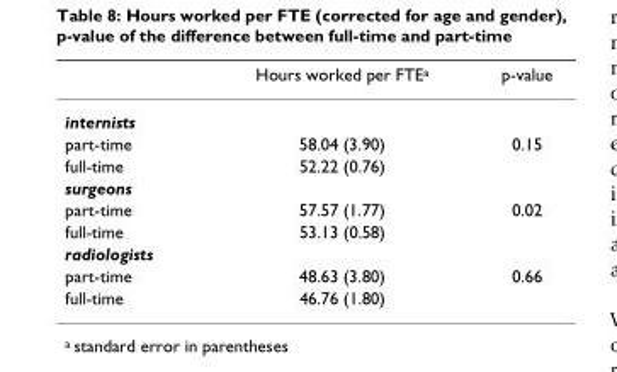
<table><thead><tr><td></td><td>Hours worked per FTEa</td><td>p-value</td></tr></thead><tbody><tr><td colspan="3">internists</td></tr><tr><td>part-time</td><td>58.04 (3.90)</td><td>0.15</td></tr><tr><td>full-time</td><td>52.22 (0.76)</td><td></td></tr><tr><td colspan="3">surgeons</td></tr><tr><td>part-time</td><td>57.57 (1.77)</td><td>0.02</td></tr><tr><td>full-time</td><td>53.13 (0.58)</td><td></td></tr><tr><td colspan="3">radiologists</td></tr><tr><td>part-time</td><td>48.63 (3.80)</td><td>0.66</td></tr><tr><td>full-time</td><td>46.76 (1.80)</td><td></td></tr></tbody></table>